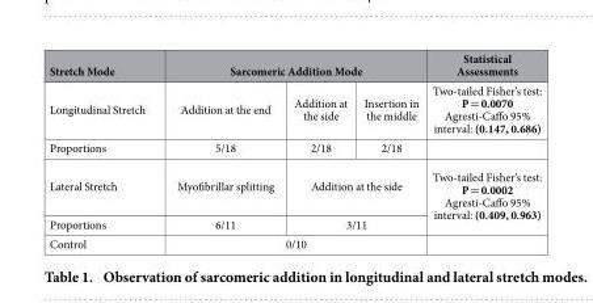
<table><thead><tr><td rowspan="2">Stretch Mode Longitudinal Stretch</td><td colspan="3">Sarcomeric Addition Mode</td><td rowspan="2">Statistical Assessments Two-tailed Fisher’s test: P = 0.0070 Agresti-Caffo 95% interval: (0.147, 0.686)</td></tr><tr><td>Addition at the end</td><td>Addition at the side</td><td>Insertion in the middle</td></tr></thead><tbody><tr><td>Proportions</td><td>5/18</td><td>2/18</td><td>2/18</td><td></td></tr><tr><td>Lateral Stretch</td><td>Myofibrillar splitting</td><td colspan="2">Addition at the side</td><td rowspan="2">Two-tailed Fisher’s test: P = 0.0002 Agresti-Caffo 95% interval: (0.409, 0.963)</td></tr><tr><td>Proportions</td><td>6/11</td><td colspan="2">3/11</td></tr><tr><td>Control</td><td colspan="3">0/10</td><td></td></tr></tbody></table>